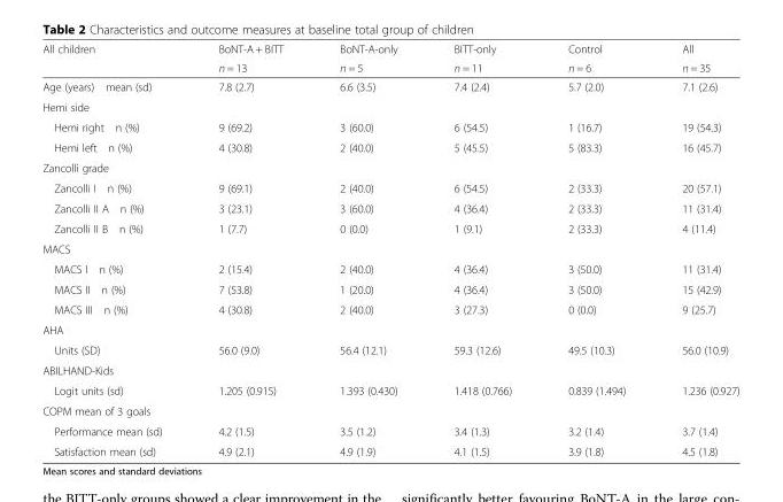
<table><thead><tr><td rowspan="2">All children</td><td rowspan="2">BoNT-A + BITT n = 13</td><td rowspan="2">BoNT-A-only n = 5</td><td rowspan="2">BITT-only n = 11</td><td rowspan="2">Control n = 6</td><td rowspan="2">All n = 35</td></tr><tr></tr></thead><tbody><tr><td>Age (years) mean (sd)</td><td>7.8 (2.7)</td><td>6.6 (3.5)</td><td>7.4 (2.4)</td><td>5.7 (2.0)</td><td>7.1 (2.6)</td></tr><tr><td colspan="6">Hemi side</td></tr><tr><td>Hemi right n (%)</td><td>9 (69.2)</td><td>3 (60.0)</td><td>6 (54.5)</td><td>1 (16.7)</td><td>19 (54.3)</td></tr><tr><td>Hemi left n (%)</td><td>4 (30.8)</td><td>2 (40.0)</td><td>5 (45.5)</td><td>5 (83.3)</td><td>16 (45.7)</td></tr><tr><td colspan="6">Zancolli grade</td></tr><tr><td>Zancolli I n (%)</td><td>9 (69.1)</td><td>2 (40.0)</td><td>6 (54.5)</td><td>2 (33.3)</td><td>20 (57.1)</td></tr><tr><td>Zancolli II A n (%)</td><td>3 (23.1)</td><td>3 (60.0)</td><td>4 (36.4)</td><td>2 (33.3)</td><td>11 (31.4)</td></tr><tr><td>Zancolli II B n (%)</td><td>1 (7.7)</td><td>0 (0.0)</td><td>1 (9.1)</td><td>2 (33.3)</td><td>4 (11.4)</td></tr><tr><td colspan="6">MACS</td></tr><tr><td>MACS I n (%)</td><td>2 (15.4)</td><td>2 (40.0)</td><td>4 (36.4)</td><td>3 (50.0)</td><td>11 (31.4)</td></tr><tr><td>MACS II n (%)</td><td>7 (53.8)</td><td>1 (20.0)</td><td>4 (36.4)</td><td>3 (50.0)</td><td>15 (42.9)</td></tr><tr><td>MACS III n (%)</td><td>4 (30.8)</td><td>2 (40.0)</td><td>3 (27.3)</td><td>0 (0.0)</td><td>9 (25.7)</td></tr><tr><td colspan="6">AHA</td></tr><tr><td>Units (SD)</td><td>56.0 (9.0)</td><td>56.4 (12.1)</td><td>59.3 (12.6)</td><td>49.5 (10.3)</td><td>56.0 (10.9)</td></tr><tr><td colspan="6">ABILHAND-Kids</td></tr><tr><td>Logit units (sd)</td><td>1.205 (0.915)</td><td>1.393 (0.430)</td><td>1.418 (0.766)</td><td>0.839 (1.494)</td><td>1.236 (0.927)</td></tr><tr><td colspan="6">COPM mean of 3 goals</td></tr><tr><td>Performance mean (sd)</td><td>4.2 (1.5)</td><td>3.5 (1.2)</td><td>3.4 (1.3)</td><td>3.2 (1.4)</td><td>3.7 (1.4)</td></tr><tr><td>Satisfaction mean (sd)</td><td>4.9 (2.1)</td><td>4.9 (1.9)</td><td>4.1 (1.5)</td><td>3.9 (1.8)</td><td>4.5 (1.8)</td></tr></tbody></table>